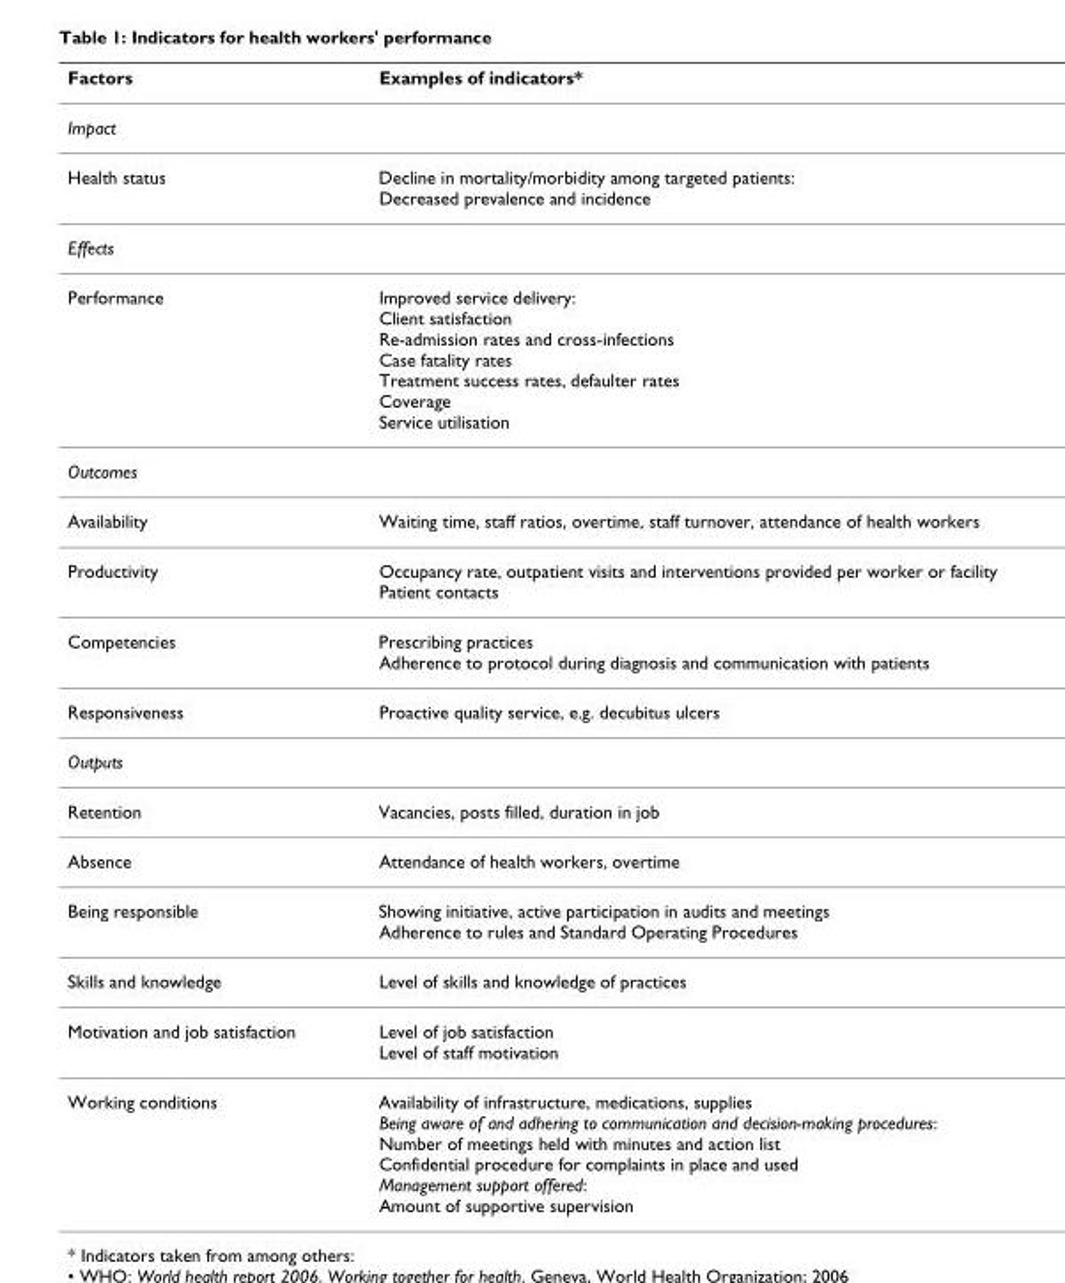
<table><thead><tr><td>Factors</td><td>Examples of indicators*</td></tr></thead><tbody><tr><td colspan="2">Impact</td></tr><tr><td>Health status</td><td>Decline in mortality/morbidity among targeted patients: Decreased prevalence and incidence</td></tr><tr><td colspan="2">Effects</td></tr><tr><td>Performance</td><td>Improved service delivery: Client satisfaction Re-admission rates and cross-infections Case fatality rates Treatment success rates, defaulter rates Coverage Service utilisation</td></tr><tr><td colspan="2">Outcomes</td></tr><tr><td>Availability</td><td>Waiting time, staff ratios, overtime, staff turnover, attendance of health workers</td></tr><tr><td>Productivity</td><td>Occupancy rate, outpatient visits and interventions provided per worker or facility Patient contacts</td></tr><tr><td>Competencies</td><td>Prescribing practices Adherence to protocol during diagnosis and communication with patients</td></tr><tr><td>Responsiveness</td><td>Proactive quality service, e.g. decubitus ulcers</td></tr><tr><td colspan="2">Outputs</td></tr><tr><td>Retention</td><td>Vacancies, posts filled, duration in job</td></tr><tr><td>Absence</td><td>Attendance of health workers, overtime</td></tr><tr><td>Being responsible</td><td>Showing initiative, active participation in audits and meetings Adherence to rules and Standard Operating Procedures</td></tr><tr><td>Skills and knowledge</td><td>Level of skills and knowledge of practices</td></tr><tr><td>Motivation and job satisfaction</td><td>Level of job satisfaction Level of staff motivation</td></tr><tr><td>Working conditions</td><td>Availability of infrastructure, medications, supplies Being aware of and adhering to communication and decision-making procedures: Number of meetings held with minutes and action list Confidential procedure for complaints in place and used Management support offered: Amount of supportive supervision</td></tr></tbody></table>